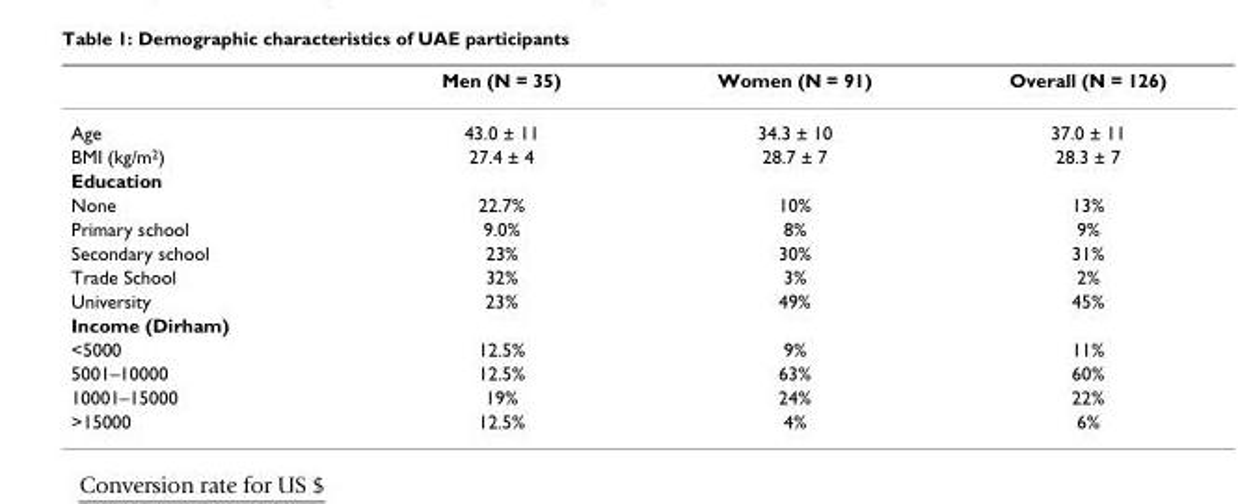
<table><thead><tr><td></td><td>Men (N = 35)</td><td>Women (N = 91)</td><td>Overall (N = 126)</td></tr></thead><tbody><tr><td>Age</td><td>43.0 ± 11</td><td>34.3 ± 10</td><td>37.0 ± 11</td></tr><tr><td>BMI (kg/m<sup>2</sup>)</td><td>27.4 ± 4</td><td>28.7 ± 7</td><td>28.3 ± 7</td></tr><tr><td colspan="4">Education</td></tr><tr><td>None</td><td>22.7%</td><td>10%</td><td>13%</td></tr><tr><td>Primary school</td><td>9.0%</td><td>8%</td><td>9%</td></tr><tr><td>Secondary school</td><td>23%</td><td>30%</td><td>31%</td></tr><tr><td>Trade School</td><td>32%</td><td>3%</td><td>2%</td></tr><tr><td>University</td><td>23%</td><td>49%</td><td>45%</td></tr><tr><td colspan="4">Income (Dirham)</td></tr><tr><td>&lt;5000</td><td>12.5%</td><td>9%</td><td>11%</td></tr><tr><td>5001–10000</td><td>12.5%</td><td>63%</td><td>60%</td></tr><tr><td>10001–15000</td><td>19%</td><td>24%</td><td>22%</td></tr><tr><td>&gt;15000</td><td>12.5%</td><td>4%</td><td>6%</td></tr></tbody></table>